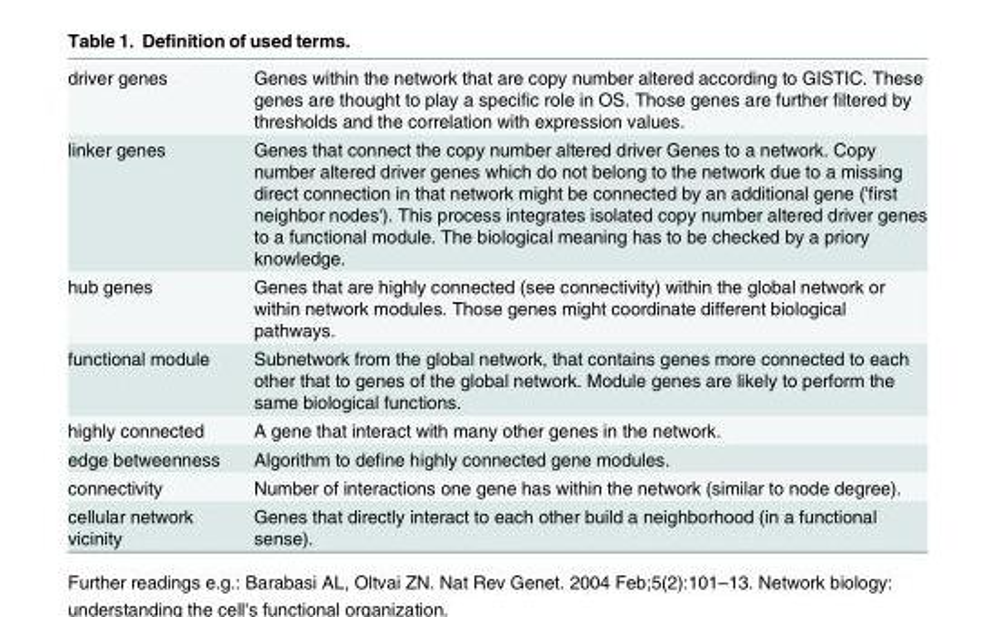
<table><tbody><tr><td>driver genes</td><td>Genes within the network that are copy number altered according to GISTIC. These genes are thought to play a specific role in OS. Those genes are further filtered by thresholds and the correlation with expression values.</td></tr><tr><td>linker genes</td><td>Genes that connect the copy number altered driver Genes to a network. Copy number altered driver genes which do not belong to the network due to a missing direct connection in that network might be connected by an additional gene (&#x27;first neighbor nodes&#x27;). This process integrates isolated copy number altered driver genes to a functional module. The biological meaning has to be checked by a priory knowledge.</td></tr><tr><td>hub genes</td><td>Genes that are highly connected (see connectivity) within the global network or within network modules. Those genes might coordinate different biological pathways.</td></tr><tr><td>functional module</td><td>Subnetwork from the global network, that contains genes more connected to each other that to genes of the global network. Module genes are likely to perform the same biological functions.</td></tr><tr><td>highly connected</td><td>A gene that interact with many other genes in the network.</td></tr><tr><td>edge betweenness</td><td>Algorithm to define highly connected gene modules.</td></tr><tr><td>connectivity</td><td>Number of interactions one gene has within the network (similar to node degree).</td></tr><tr><td>cellular network vicinity</td><td>Genes that directly interact to each other build a neighborhood (in a functional sense).</td></tr></tbody></table>